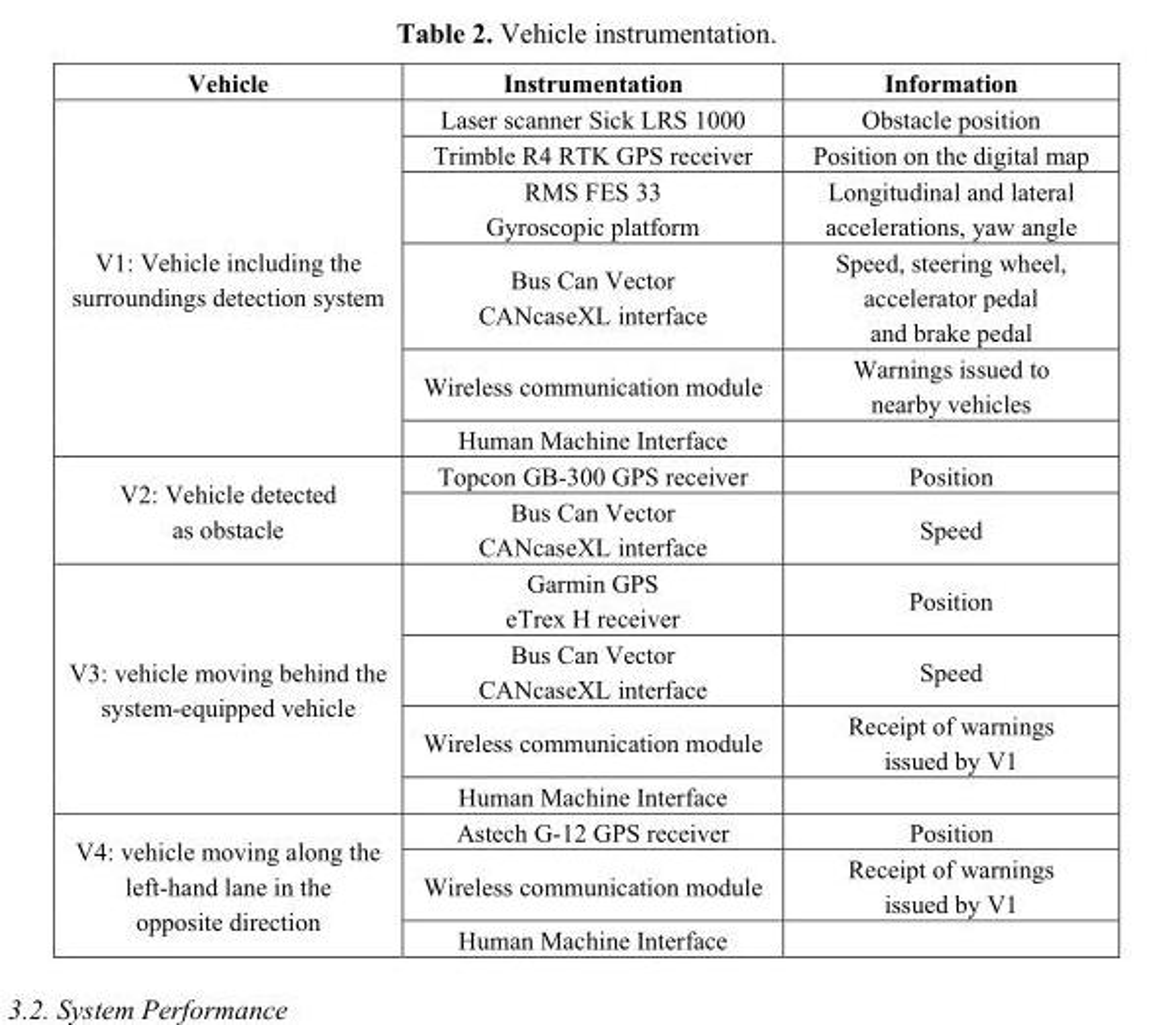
<table><thead><tr><td>Vehicle</td><td>Instrumentation</td><td>Information</td></tr></thead><tbody><tr><td rowspan="6">V1: Vehicle including the surroundings detection system</td><td>Laser scanner Sick LRS 1000</td><td>Obstacle position</td></tr><tr><td>Trimble R4 RTK GPS receiver</td><td>Position on the digital map</td></tr><tr><td>RMS FES 33 Gyroscopic platform</td><td>Longitudinal and lateral accelerations, yaw angle</td></tr><tr><td>Bus Can Vector CANcaseXL interface</td><td>Speed, steering wheel, accelerator pedal and brake pedal</td></tr><tr><td>Wireless communication module</td><td>Warnings issued to nearby vehicles</td></tr><tr><td>Human Machine Interface</td><td></td></tr><tr><td rowspan="2">V2: Vehicle detected as obstacle</td><td>Topcon GB-300 GPS receiver</td><td>Position</td></tr><tr><td>Bus Can Vector CANcaseXL interface</td><td>Speed</td></tr><tr><td rowspan="4">V3: vehicle moving behind the system-equipped vehicle</td><td>Garmin GPS eTrex H receiver</td><td>Position</td></tr><tr><td>Bus Can Vector CANcaseXL interface</td><td>Speed</td></tr><tr><td>Wireless communication module</td><td>Receipt of warnings issued by V1</td></tr><tr><td>Human Machine Interface</td><td></td></tr><tr><td rowspan="3">V4: vehicle moving along the left-hand lane in the opposite direction</td><td>Astech G-12 GPS receiver</td><td>Position</td></tr><tr><td>Wireless communication module</td><td>Receipt of warnings issued by V1</td></tr><tr><td>Human Machine Interface</td><td></td></tr></tbody></table>